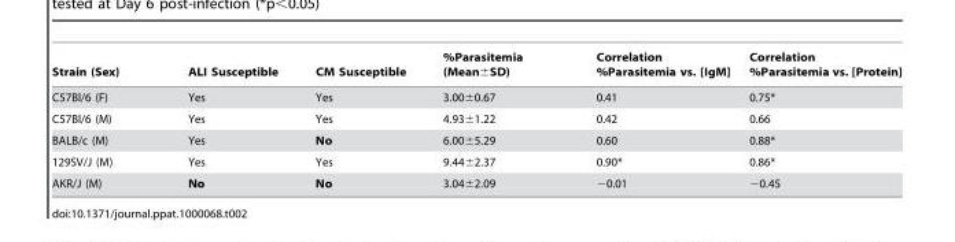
<table><thead><tr><td>Strain (Sex)</td><td>ALI Susceptible</td><td>CM Susceptible</td><td>%Parasitemia (Mean±SD)</td><td>Correlation %Parasitemia vs. [IgM]</td><td>Correlation %Parasitemia vs. [Protein]</td></tr></thead><tbody><tr><td>C57Bl/6 (F)</td><td>Yes</td><td>Yes</td><td>3.00±0.67</td><td>0.41</td><td>0.75*</td></tr><tr><td>C57Bl/6 (M)</td><td>Yes</td><td>Yes</td><td>4.93±1.22</td><td>0.42</td><td>0.66</td></tr><tr><td>BALB/c (M)</td><td>Yes</td><td>No</td><td>6.00±5.29</td><td>0.60</td><td>0.88*</td></tr><tr><td>129SV/J (M)</td><td>Yes</td><td>Yes</td><td>9.44±2.37</td><td>0.90*</td><td>0.86*</td></tr><tr><td>AKR/J (M)</td><td>No</td><td>No</td><td>3.04±2.09</td><td>−0.01</td><td>−0.45</td></tr></tbody></table>